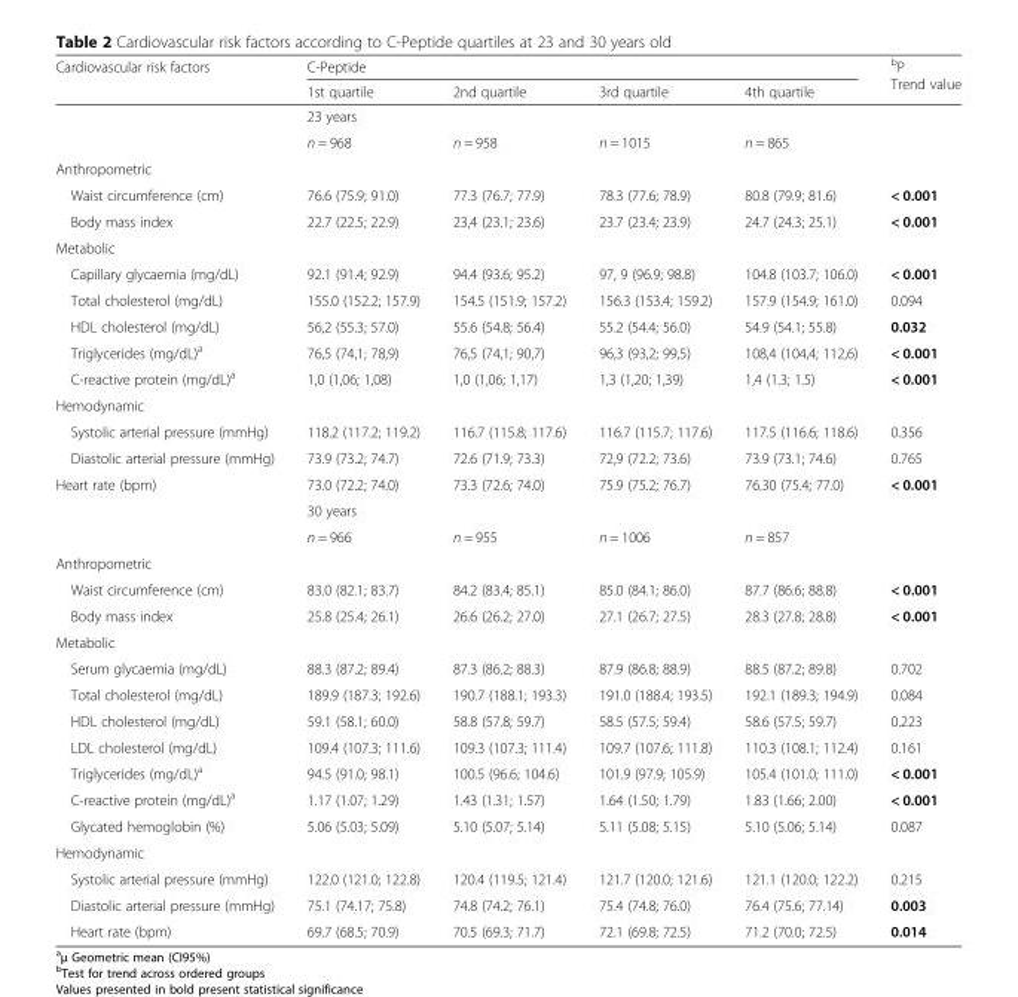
<table><thead><tr><td rowspan="2">Cardiovascular risk factors</td><td colspan="4">C-Peptide</td><td rowspan="2"><sup>b</sup>P Trend value</td></tr><tr><td>1st quartile</td><td>2nd quartile</td><td>3rd quartile</td><td>4th quartile</td></tr></thead><tbody><tr><td rowspan="2"></td><td colspan="4">23 years</td><td rowspan="2"></td></tr><tr><td>n = 968</td><td>n = 958</td><td>n = 1015</td><td>n = 865</td></tr><tr><td colspan="6">Anthropometric</td></tr><tr><td>Waist circumference (cm)</td><td>76.6 (75.9; 91.0)</td><td>77.3 (76.7; 77.9)</td><td>78.3 (77.6; 78.9)</td><td>80.8 (79.9; 81.6)</td><td>&lt; 0.001</td></tr><tr><td>Body mass index</td><td>22.7 (22.5; 22.9)</td><td>23,4 (23.1; 23.6)</td><td>23.7 (23.4; 23.9)</td><td>24.7 (24.3; 25.1)</td><td>&lt; 0.001</td></tr><tr><td colspan="6">Metabolic</td></tr><tr><td>Capillary glycaemia (mg/dL)</td><td>92.1 (91.4; 92.9)</td><td>94.4 (93.6; 95.2)</td><td>97, 9 (96.9; 98.8)</td><td>104.8 (103.7; 106.0)</td><td>&lt; 0.001</td></tr><tr><td>Total cholesterol (mg/dL)</td><td>155.0 (152.2; 157.9)</td><td>154.5 (151.9; 157.2)</td><td>156.3 (153.4; 159.2)</td><td>157.9 (154.9; 161.0)</td><td>0.094</td></tr><tr><td>HDL cholesterol (mg/dL)</td><td>56,2 (55.3; 57.0)</td><td>55.6 (54.8; 56.4)</td><td>55.2 (54.4; 56.0)</td><td>54.9 (54.1; 55.8)</td><td>0.032</td></tr><tr><td>Triglycerides (mg/dL)<sup>a</sup></td><td>76,5 (74,1; 78,9)</td><td>76,5 (74,1; 90,7)</td><td>96,3 (93,2; 99,5)</td><td>108,4 (104,4; 112,6)</td><td>&lt; 0.001</td></tr><tr><td>C-reactive protein (mg/dL)<sup>a</sup></td><td>1,0 (1,06; 1,08)</td><td>1,0 (1,06; 1,17)</td><td>1,3 (1,20; 1,39)</td><td>1,4 (1.3; 1.5)</td><td>&lt; 0.001</td></tr><tr><td colspan="6">Hemodynamic</td></tr><tr><td>Systolic arterial pressure (mmHg)</td><td>118.2 (117.2; 119.2)</td><td>116.7 (115.8; 117.6)</td><td>116.7 (115.7; 117.6)</td><td>117.5 (116.6; 118.6)</td><td>0.356</td></tr><tr><td>Diastolic arterial pressure (mmHg)</td><td>73.9 (73.2; 74.7)</td><td>72.6 (71.9; 73.3)</td><td>72,9 (72.2; 73.6)</td><td>73.9 (73.1; 74.6)</td><td>0.765</td></tr><tr><td rowspan="3">Heart rate (bpm)</td><td>73.0 (72.2; 74.0)</td><td>73.3 (72.6; 74.0)</td><td>75.9 (75.2; 76.7)</td><td>76.30 (75.4; 77.0)</td><td>&lt; 0.001</td></tr><tr><td colspan="4">30 years</td><td rowspan="2"></td></tr><tr><td>n = 966</td><td>n = 955</td><td>n = 1006</td><td>n = 857</td></tr><tr><td colspan="6">Anthropometric</td></tr><tr><td>Waist circumference (cm)</td><td>83.0 (82.1; 83.7)</td><td>84.2 (83.4; 85.1)</td><td>85.0 (84.1; 86.0)</td><td>87.7 (86.6; 88.8)</td><td>&lt; 0.001</td></tr><tr><td>Body mass index</td><td>25.8 (25.4; 26.1)</td><td>26.6 (26.2; 27.0)</td><td>27.1 (26.7; 27.5)</td><td>28.3 (27.8; 28.8)</td><td>&lt; 0.001</td></tr><tr><td colspan="6">Metabolic</td></tr><tr><td>Serum glycaemia (mg/dL)</td><td>88.3 (87.2; 89.4)</td><td>87.3 (86.2; 88.3)</td><td>87.9 (86.8; 88.9)</td><td>88.5 (87.2; 89.8)</td><td>0.702</td></tr><tr><td>Total cholesterol (mg/dL)</td><td>189.9 (187.3; 192.6)</td><td>190.7 (188.1; 193.3)</td><td>191.0 (188.4; 193.5)</td><td>192.1 (189.3; 194.9)</td><td>0.084</td></tr><tr><td>HDL cholesterol (mg/dL)</td><td>59.1 (58.1; 60.0)</td><td>58.8 (57.8; 59.7)</td><td>58.5 (57.5; 59.4)</td><td>58.6 (57.5; 59.7)</td><td>0.223</td></tr><tr><td>LDL cholesterol (mg/dL)</td><td>109.4 (107.3; 111.6)</td><td>109.3 (107.3; 111.4)</td><td>109.7 (107.6; 111.8)</td><td>110.3 (108.1; 112.4)</td><td>0.161</td></tr><tr><td>Triglycerides (mg/dL)<sup>a</sup></td><td>94.5 (91.0; 98.1)</td><td>100.5 (96.6; 104.6)</td><td>101.9 (97.9; 105.9)</td><td>105.4 (101.0; 111.0)</td><td>&lt; 0.001</td></tr><tr><td>C-reactive protein (mg/dL)<sup>a</sup></td><td>1.17 (1.07; 1.29)</td><td>1.43 (1.31; 1.57)</td><td>1.64 (1.50; 1.79)</td><td>1.83 (1.66; 2.00)</td><td>&lt; 0.001</td></tr><tr><td>Glycated hemoglobin (%)</td><td>5.06 (5.03; 5.09)</td><td>5.10 (5.07; 5.14)</td><td>5.11 (5.08; 5.15)</td><td>5.10 (5.06; 5.14)</td><td>0.087</td></tr><tr><td colspan="6">Hemodynamic</td></tr><tr><td>Systolic arterial pressure (mmHg)</td><td>122.0 (121.0; 122.8)</td><td>120.4 (119.5; 121.4)</td><td>121.7 (120.0; 121.6)</td><td>121.1 (120.0; 122.2)</td><td>0.215</td></tr><tr><td>Diastolic arterial pressure (mmHg)</td><td>75.1 (74.17; 75.8)</td><td>74.8 (74.2; 76.1)</td><td>75.4 (74.8; 76.0)</td><td>76.4 (75.6; 77.14)</td><td>0.003</td></tr><tr><td>Heart rate (bpm)</td><td>69.7 (68.5; 70.9)</td><td>70.5 (69.3; 71.7)</td><td>72.1 (69.8; 72.5)</td><td>71.2 (70.0; 72.5)</td><td>0.014</td></tr></tbody></table>